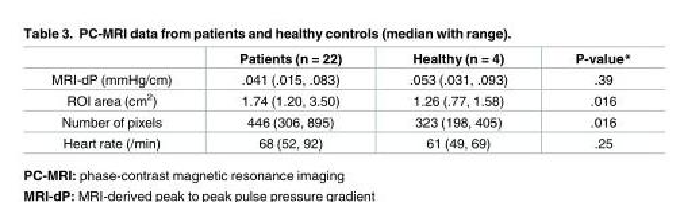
<table><thead><tr><td></td><td>Patients (n = 22)</td><td>Healthy (n = 4)</td><td>P-value*</td></tr></thead><tbody><tr><td>MRI-dP (mmHg/cm)</td><td>.041 (.015, .083)</td><td>.053 (.031, .093)</td><td>.39</td></tr><tr><td>ROI area (cm<sup>2</sup>)</td><td>1.74 (1.20, 3.50)</td><td>1.26 (.77, 1.58)</td><td>.016</td></tr><tr><td>Number of pixels</td><td>446 (306, 895)</td><td>323 (198, 405)</td><td>.016</td></tr><tr><td>Heart rate (/min)</td><td>68 (52, 92)</td><td>61 (49, 69)</td><td>.25</td></tr></tbody></table>